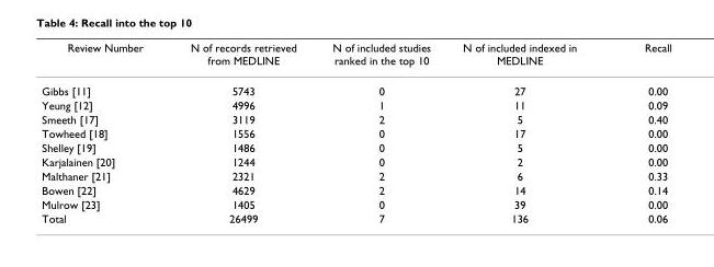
<table><thead><tr><td>Review Number</td><td>N of records retrieved from MEDLINE</td><td>N of included studies ranked in the top 10</td><td>N of included indexed in MEDLINE</td><td>Recall</td></tr></thead><tbody><tr><td>Gibbs [11]</td><td>5743</td><td>0</td><td>27</td><td>0.00</td></tr><tr><td>Yeung [12]</td><td>4996</td><td>1</td><td>11</td><td>0.09</td></tr><tr><td>Smeeth [17]</td><td>3119</td><td>2</td><td>5</td><td>0.40</td></tr><tr><td>Towheed [18]</td><td>1556</td><td>0</td><td>17</td><td>0.00</td></tr><tr><td>Shelley [19]</td><td>1486</td><td>0</td><td>5</td><td>0.00</td></tr><tr><td>Karjalainen [20]</td><td>1244</td><td>0</td><td>2</td><td>0.00</td></tr><tr><td>Malthaner [21]</td><td>2321</td><td>2</td><td>6</td><td>0.33</td></tr><tr><td>Bowen [22]</td><td>4629</td><td>2</td><td>14</td><td>0.14</td></tr><tr><td>Mulrow [23]</td><td>1405</td><td>0</td><td>39</td><td>0.00</td></tr><tr><td>Total</td><td>26499</td><td>7</td><td>136</td><td>0.06</td></tr></tbody></table>